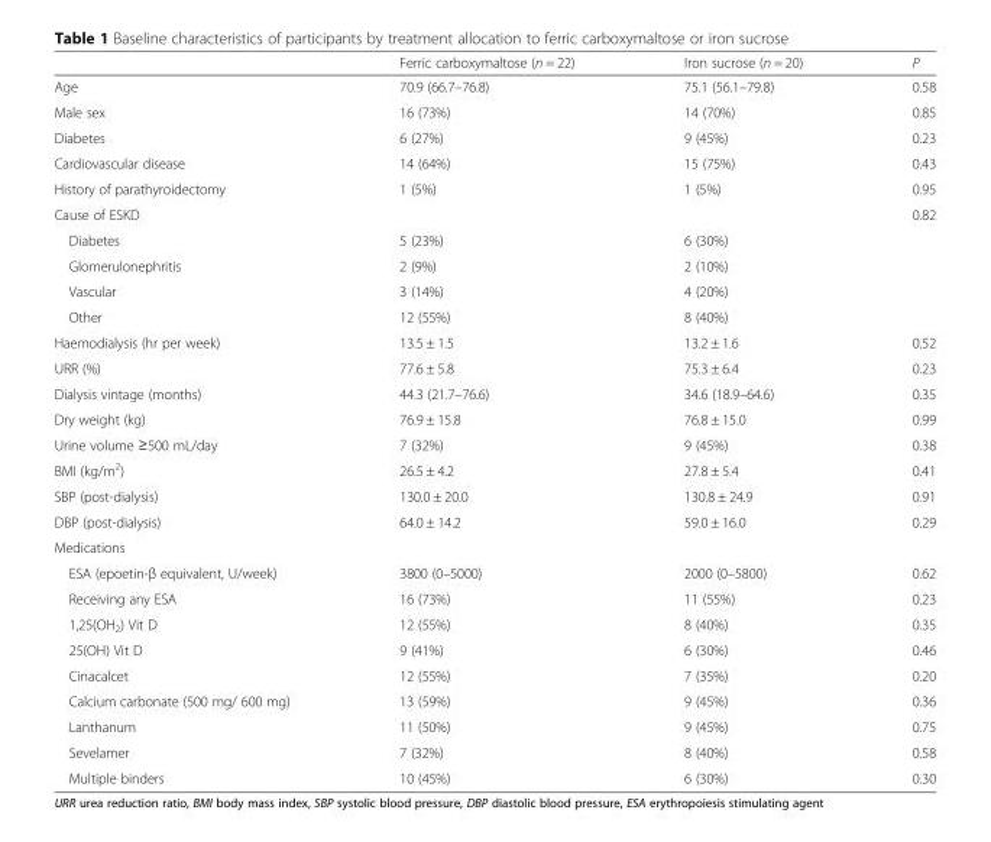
<table><thead><tr><td></td><td>Ferric carboxymaltose (n = 22)</td><td>Iron sucrose (n = 20)</td><td>P</td></tr></thead><tbody><tr><td>Age</td><td>70.9 (66.7–76.8)</td><td>75.1 (56.1–79.8)</td><td>0.58</td></tr><tr><td>Male sex</td><td>16 (73%)</td><td>14 (70%)</td><td>0.85</td></tr><tr><td>Diabetes</td><td>6 (27%)</td><td>9 (45%)</td><td>0.23</td></tr><tr><td>Cardiovascular disease</td><td>14 (64%)</td><td>15 (75%)</td><td>0.43</td></tr><tr><td>History of parathyroidectomy</td><td>1 (5%)</td><td>1 (5%)</td><td>0.95</td></tr><tr><td>Cause of ESKD</td><td></td><td></td><td>0.82</td></tr><tr><td>Diabetes</td><td>5 (23%)</td><td>6 (30%)</td><td></td></tr><tr><td>Glomerulonephritis</td><td>2 (9%)</td><td>2 (10%)</td><td></td></tr><tr><td>Vascular</td><td>3 (14%)</td><td>4 (20%)</td><td></td></tr><tr><td>Other</td><td>12 (55%)</td><td>8 (40%)</td><td></td></tr><tr><td>Haemodialysis (hr per week)</td><td>13.5 ± 1.5</td><td>13.2 ± 1.6</td><td>0.52</td></tr><tr><td>URR (%)</td><td>77.6 ± 5.8</td><td>75.3 ± 6.4</td><td>0.23</td></tr><tr><td>Dialysis vintage (months)</td><td>44.3 (21.7–76.6)</td><td>34.6 (18.9–64.6)</td><td>0.35</td></tr><tr><td>Dry weight (kg)</td><td>76.9 ± 15.8</td><td>76.8 ± 15.0</td><td>0.99</td></tr><tr><td>Urine volume ≥500 mL/day</td><td>7 (32%)</td><td>9 (45%)</td><td>0.38</td></tr><tr><td>BMI (kg/m<sup>2</sup>)</td><td>26.5 ± 4.2</td><td>27.8 ± 5.4</td><td>0.41</td></tr><tr><td>SBP (post-dialysis)</td><td>130.0 ± 20.0</td><td>130.8 ± 24.9</td><td>0.91</td></tr><tr><td>DBP (post-dialysis)</td><td>64.0 ± 14.2</td><td>59.0 ± 16.0</td><td>0.29</td></tr><tr><td colspan="4">Medications</td></tr><tr><td>ESA (epoetin-β equivalent, U/week)</td><td>3800 (0–5000)</td><td>2000 (0–5800)</td><td>0.62</td></tr><tr><td>Receiving any ESA</td><td>16 (73%)</td><td>11 (55%)</td><td>0.23</td></tr><tr><td>1,25(OH<sub>2</sub>) Vit D</td><td>12 (55%)</td><td>8 (40%)</td><td>0.35</td></tr><tr><td>25(OH) Vit D</td><td>9 (41%)</td><td>6 (30%)</td><td>0.46</td></tr><tr><td>Cinacalcet</td><td>12 (55%)</td><td>7 (35%)</td><td>0.20</td></tr><tr><td>Calcium carbonate (500 mg/ 600 mg)</td><td>13 (59%)</td><td>9 (45%)</td><td>0.36</td></tr><tr><td>Lanthanum</td><td>11 (50%)</td><td>9 (45%)</td><td>0.75</td></tr><tr><td>Sevelamer</td><td>7 (32%)</td><td>8 (40%)</td><td>0.58</td></tr><tr><td>Multiple binders</td><td>10 (45%)</td><td>6 (30%)</td><td>0.30</td></tr></tbody></table>